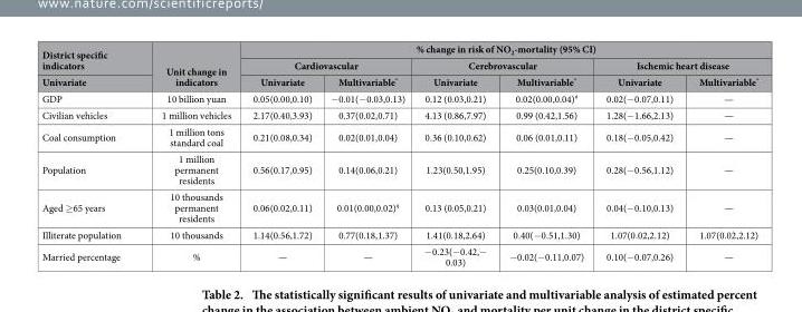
<table><thead><tr><td rowspan="3">District specific indicators Univariate</td><td rowspan="3">Unit change in indicators</td><td colspan="6">% change in risk of NO<sub>2</sub>-mortality (95% CI)</td></tr><tr><td colspan="2">Cardiovascular</td><td colspan="2">Cerebrovascular</td><td colspan="2">Ischemic heart disease</td></tr><tr><td>Univariate</td><td>Multivariable*</td><td>Univariate</td><td>Multivariable*</td><td>Univariate</td><td>Multivariable*</td></tr></thead><tbody><tr><td>GDP</td><td>10 billion yuan</td><td>0.05(0.00,0.10)</td><td>− 0.01(− 0.03,0.13)</td><td>0.12 (0.03,0.21)</td><td>0.02(0.00,0.04)#</td><td>0.02(− 0.07,0.11)</td><td>—</td></tr><tr><td>Civilian vehicles</td><td>1 million vehicles</td><td>2.17(0.40,3.93)</td><td>0.37(0.02,0.71)</td><td>4.13 (0.86,7.97)</td><td>0.99 (0.42,1.56)</td><td>1.28(− 1.66,2.13)</td><td>—</td></tr><tr><td>Coal consumption</td><td>1 million tons standard coal</td><td>0.21(0.08,0.34)</td><td>0.02(0.01,0.04)</td><td>0.36 (0.10,0.62)</td><td>0.06 (0.01,0.11)</td><td>0.18(− 0.05,0.42)</td><td>—</td></tr><tr><td>Population</td><td>1 million permanent residents</td><td>0.56(0.17,0.95)</td><td>0.14(0.06,0.21)</td><td>1.23(0.50,1.95)</td><td>0.25(0.10,0.39)</td><td>0.28(− 0.56,1.12)</td><td>—</td></tr><tr><td>Aged ≥ 65 years</td><td>10 thousands permanent residents</td><td>0.06(0.02,0.11)</td><td>0.01(0.00,0.02)§</td><td>0.13 (0.05,0.21)</td><td>0.03(0.01,0.04)</td><td>0.04(− 0.10,0.13)</td><td>—</td></tr><tr><td>Illiterate population</td><td>10 thousands</td><td>1.14(0.56,1.72)</td><td>0.77(0.18,1.37)</td><td>1.41(0.18,2.64)</td><td>0.40(− 0.51,1.30)</td><td>1.07(0.02,2.12)</td><td>1.07(0.02,2.12)</td></tr><tr><td>Married percentage</td><td>%</td><td>—</td><td>—</td><td>− 0.23(− 0.42,− 0.03)</td><td>− 0.02(− 0.11,0.07)</td><td>0.10(− 0.07,0.26)</td><td>—</td></tr></tbody></table>